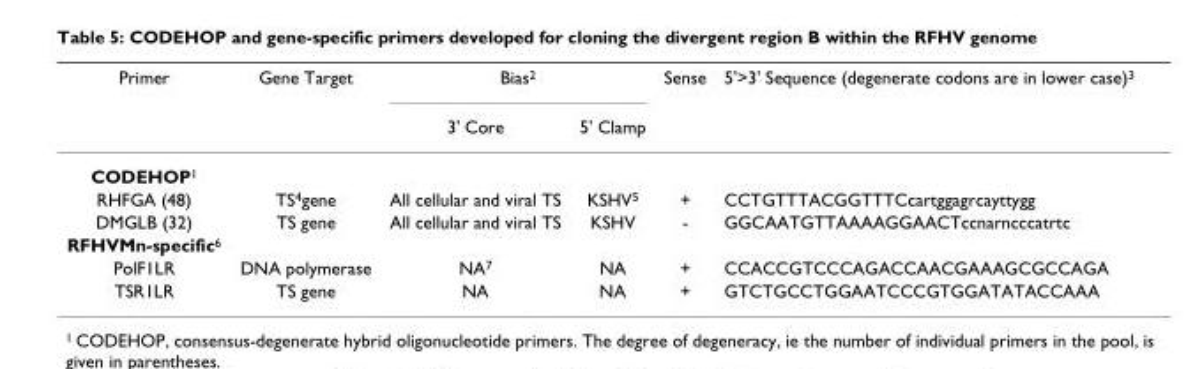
<table><thead><tr><td rowspan="2">Primer</td><td rowspan="2">Gene Target</td><td colspan="2">Bias<sup>2</sup></td><td rowspan="2">Sense</td><td rowspan="2">5&#x27;&gt;3&#x27; Sequence (degenerate codons are in lower case)<sup>3</sup></td></tr><tr><td>3&#x27; Core</td><td>5&#x27; Clamp</td></tr></thead><tbody><tr><td colspan="6">CODEHOP<sup>1</sup></td></tr><tr><td>RHFGA (48)</td><td>TS<sup>4</sup>gene</td><td>All cellular and viral TS</td><td>KSHV<sup>5</sup></td><td>+</td><td>CCTGTTTACGGTTTCcartggagrcayttygg</td></tr><tr><td>DMGLB (32)</td><td>TS gene</td><td>All cellular and viral TS</td><td>KSHV</td><td>-</td><td>GGCAATGTTAAAAGGAACTccnarncccatrtc</td></tr><tr><td colspan="6">RFHVMn-specific<sup>6</sup></td></tr><tr><td>PolF1LR</td><td>DNA polymerase</td><td>NA<sup>7</sup></td><td>NA</td><td>+</td><td>CCACCGTCCCAGACCAACGAAAGCGCCAGA</td></tr><tr><td>TSR1LR</td><td>TS gene</td><td>NA</td><td>NA</td><td>+</td><td>GTCTGCCTGGAATCCCGTGGATATACCAAA</td></tr></tbody></table>